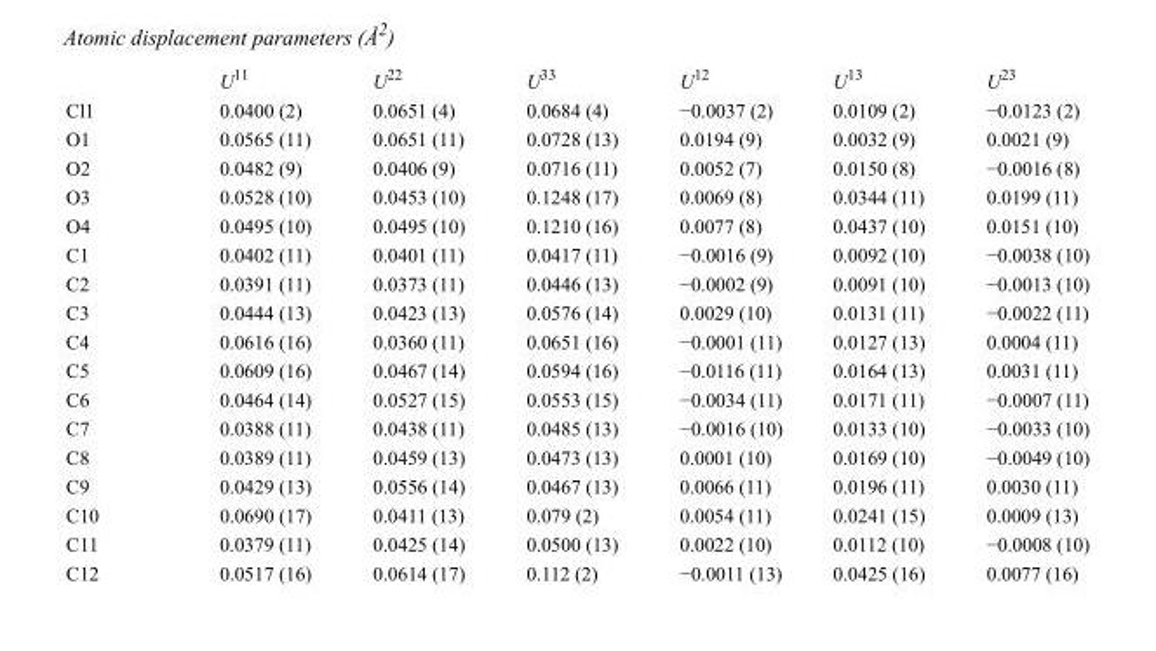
<table><thead><tr><td></td><td>U<sup>11</sup></td><td>U<sup>22</sup></td><td>U<sup>33</sup></td><td>U<sup>12</sup></td><td>U<sup>13</sup></td><td>U<sup>23</sup></td></tr></thead><tbody><tr><td>Cl1</td><td>0.0400 (2)</td><td>0.0651 (4)</td><td>0.0684 (4)</td><td>−0.0037 (2)</td><td>0.0109 (2)</td><td>−0.0123 (2)</td></tr><tr><td>O1</td><td>0.0565 (11)</td><td>0.0651 (11)</td><td>0.0728 (13)</td><td>0.0194 (9)</td><td>0.0032 (9)</td><td>0.0021 (9)</td></tr><tr><td>O2</td><td>0.0482 (9)</td><td>0.0406 (9)</td><td>0.0716 (11)</td><td>0.0052 (7)</td><td>0.0150 (8)</td><td>−0.0016 (8)</td></tr><tr><td>O3</td><td>0.0528 (10)</td><td>0.0453 (10)</td><td>0.1248 (17)</td><td>0.0069 (8)</td><td>0.0344 (11)</td><td>0.0199 (11)</td></tr><tr><td>O4</td><td>0.0495 (10)</td><td>0.0495 (10)</td><td>0.1210 (16)</td><td>0.0077 (8)</td><td>0.0437 (10)</td><td>0.0151 (10)</td></tr><tr><td>C1</td><td>0.0402 (11)</td><td>0.0401 (11)</td><td>0.0417 (11)</td><td>−0.0016 (9)</td><td>0.0092 (10)</td><td>−0.0038 (10)</td></tr><tr><td>C2</td><td>0.0391 (11)</td><td>0.0373 (11)</td><td>0.0446 (13)</td><td>−0.0002 (9)</td><td>0.0091 (10)</td><td>−0.0013 (10)</td></tr><tr><td>C3</td><td>0.0444 (13)</td><td>0.0423 (13)</td><td>0.0576 (14)</td><td>0.0029 (10)</td><td>0.0131 (11)</td><td>−0.0022 (11)</td></tr><tr><td>C4</td><td>0.0616 (16)</td><td>0.0360 (11)</td><td>0.0651 (16)</td><td>−0.0001 (11)</td><td>0.0127 (13)</td><td>0.0004 (11)</td></tr><tr><td>C5</td><td>0.0609 (16)</td><td>0.0467 (14)</td><td>0.0594 (16)</td><td>−0.0116 (11)</td><td>0.0164 (13)</td><td>0.0031 (11)</td></tr><tr><td>C6</td><td>0.0464 (14)</td><td>0.0527 (15)</td><td>0.0553 (15)</td><td>−0.0034 (11)</td><td>0.0171 (11)</td><td>−0.0007 (11)</td></tr><tr><td>C7</td><td>0.0388 (11)</td><td>0.0438 (11)</td><td>0.0485 (13)</td><td>−0.0016 (10)</td><td>0.0133 (10)</td><td>−0.0033 (10)</td></tr><tr><td>C8</td><td>0.0389 (11)</td><td>0.0459 (13)</td><td>0.0473 (13)</td><td>0.0001 (10)</td><td>0.0169 (10)</td><td>−0.0049 (10)</td></tr><tr><td>C9</td><td>0.0429 (13)</td><td>0.0556 (14)</td><td>0.0467 (13)</td><td>0.0066 (11)</td><td>0.0196 (11)</td><td>0.0030 (11)</td></tr><tr><td>C10</td><td>0.0690 (17)</td><td>0.0411 (13)</td><td>0.079 (2)</td><td>0.0054 (11)</td><td>0.0241 (15)</td><td>0.0009 (13)</td></tr><tr><td>C11</td><td>0.0379 (11)</td><td>0.0425 (14)</td><td>0.0500 (13)</td><td>0.0022 (10)</td><td>0.0112 (10)</td><td>−0.0008 (10)</td></tr><tr><td>C12</td><td>0.0517 (16)</td><td>0.0614 (17)</td><td>0.112 (2)</td><td>−0.0011 (13)</td><td>0.0425 (16)</td><td>0.0077 (16)</td></tr></tbody></table>